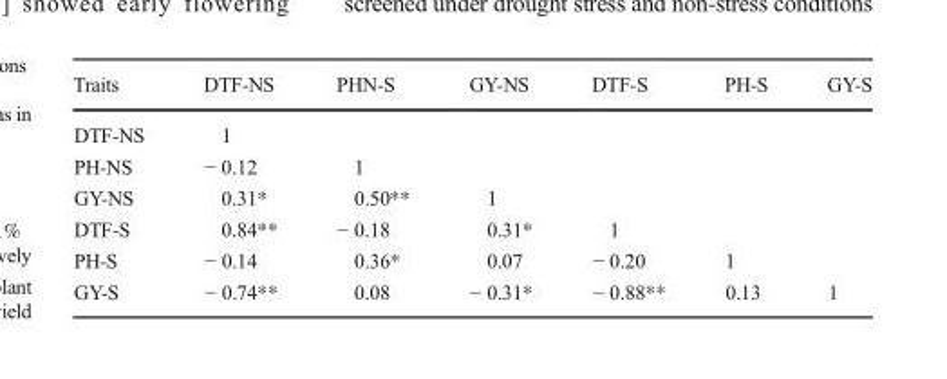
<table><thead><tr><td>Traits</td><td>DTF-NS</td><td>PHN-S</td><td>GY-NS</td><td>DTF-S</td><td>PH-S</td><td>GY-S</td></tr></thead><tbody><tr><td>DTF-NS</td><td>1</td><td></td><td></td><td></td><td></td><td></td></tr><tr><td>PH-NS</td><td>− 0.12</td><td>1</td><td></td><td></td><td></td><td></td></tr><tr><td>GY-NS</td><td>0.31*</td><td>0.50**</td><td>1</td><td></td><td></td><td></td></tr><tr><td>DTF-S</td><td>0.84**</td><td>− 0.18</td><td>0.31*</td><td>1</td><td></td><td></td></tr><tr><td>PH-S</td><td>− 0.14</td><td>0.36*</td><td>0.07</td><td>− 0.20</td><td>1</td><td></td></tr><tr><td>GY-S</td><td>− 0.74**</td><td>0.08</td><td>− 0.31*</td><td>− 0.88**</td><td>0.13</td><td>1</td></tr></tbody></table>